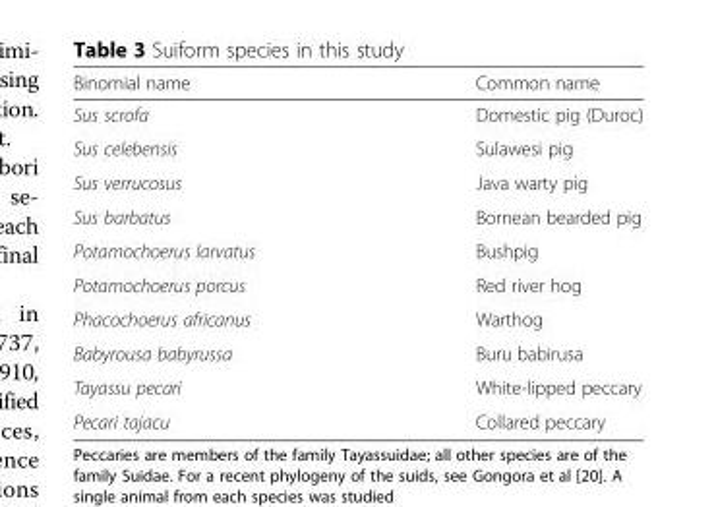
<table><thead><tr><td>Binomial name</td><td>Common name</td></tr></thead><tbody><tr><td>Sus scrofa</td><td>Domestic pig (Duroc)</td></tr><tr><td>Sus celebensis</td><td>Sulawesi pig</td></tr><tr><td>Sus verrucosus</td><td>Java warty pig</td></tr><tr><td>Sus barbatus</td><td>Bornean bearded pig</td></tr><tr><td>Potamochoerus larvatus</td><td>Bushpig</td></tr><tr><td>Potamochoerus porcus</td><td>Red river hog</td></tr><tr><td>Phacochoerus africanus</td><td>Warthog</td></tr><tr><td>Babyrousa babyrussa</td><td>Buru babirusa</td></tr><tr><td>Tayassu pecari</td><td>White-lipped peccary</td></tr><tr><td>Pecari tajacu</td><td>Collared peccary</td></tr></tbody></table>